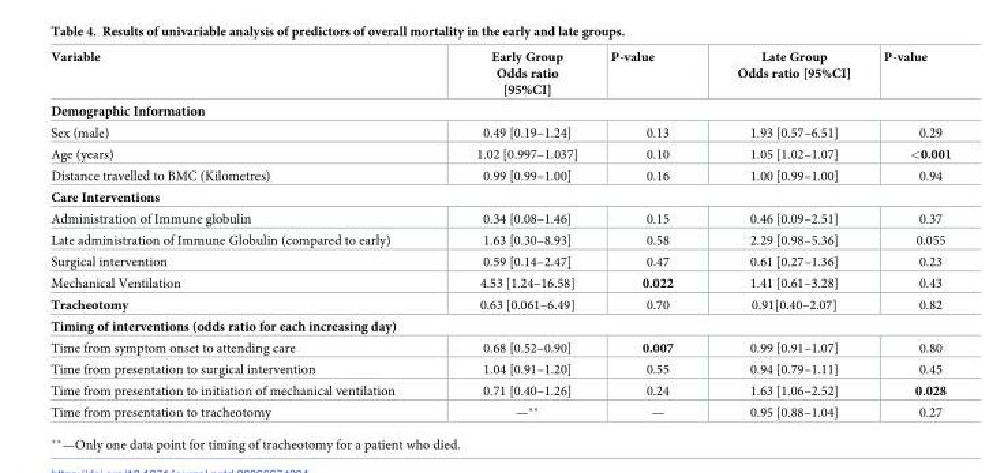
<table><thead><tr><td>Variable</td><td>Early Group Odds ratio [95%CI]</td><td>P-value</td><td>Late Group Odds ratio [95%CI]</td><td>P-value</td></tr></thead><tbody><tr><td colspan="5">Demographic Information</td></tr><tr><td>Sex (male)</td><td>0.49 [0.19–1.24]</td><td>0.13</td><td>1.93 [0.57–6.51]</td><td>0.29</td></tr><tr><td>Age (years)</td><td>1.02 [0.997–1.037]</td><td>0.10</td><td>1.05 [1.02–1.07]</td><td>&lt;0.001</td></tr><tr><td>Distance travelled to BMC (Kilometres)</td><td>0.99 [0.99–1.00]</td><td>0.16</td><td>1.00 [0.99–1.00]</td><td>0.94</td></tr><tr><td colspan="5">Care Interventions</td></tr><tr><td>Administration of Immune globulin</td><td>0.34 [0.08–1.46]</td><td>0.15</td><td>0.46 [0.09–2.51]</td><td>0.37</td></tr><tr><td>Late administration of Immune Globulin (compared to early)</td><td>1.63 [0.30–8.93]</td><td>0.58</td><td>2.29 [0.98–5.36]</td><td>0.055</td></tr><tr><td>Surgical intervention</td><td>0.59 [0.14–2.47]</td><td>0.47</td><td>0.61 [0.27–1.36]</td><td>0.23</td></tr><tr><td>Mechanical Ventilation</td><td>4.53 [1.24–16.58]</td><td>0.022</td><td>1.41 [0.61–3.28]</td><td>0.43</td></tr><tr><td>Tracheotomy</td><td>0.63 [0.061–6.49]</td><td>0.70</td><td>0.91[0.40–2.07]</td><td>0.82</td></tr><tr><td colspan="5">Timing of interventions (odds ratio for each increasing day)</td></tr><tr><td>Time from symptom onset to attending care</td><td>0.68 [0.52–0.90]</td><td>0.007</td><td>0.99 [0.91–1.07]</td><td>0.80</td></tr><tr><td>Time from presentation to surgical intervention</td><td>1.04 [0.91–1.20]</td><td>0.55</td><td>0.94 [0.79–1.11]</td><td>0.45</td></tr><tr><td>Time from presentation to initiation of mechanical ventilation</td><td>0.71 [0.40–1.26]</td><td>0.24</td><td>1.63 [1.06–2.52]</td><td>0.028</td></tr><tr><td>Time from presentation to tracheotomy</td><td>—**</td><td>—</td><td>0.95 [0.88–1.04]</td><td>0.27</td></tr></tbody></table>